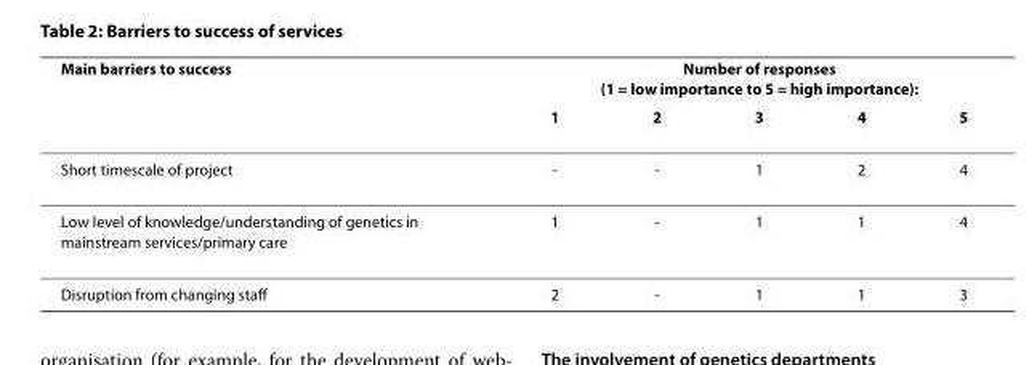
<table><thead><tr><td rowspan="2">Main barriers to success</td><td colspan="5">Number of responses (1 = low importance to 5 = high importance):</td></tr><tr><td>1</td><td>2</td><td>3</td><td>4</td><td>5</td></tr></thead><tbody><tr><td>Short timescale of project</td><td>-</td><td>-</td><td>1</td><td>2</td><td>4</td></tr><tr><td>Low level of knowledge/understanding of genetics in mainstream services/primary care</td><td>1</td><td>-</td><td>1</td><td>1</td><td>4</td></tr><tr><td>Disruption from changing staff</td><td>2</td><td>-</td><td>1</td><td>1</td><td>3</td></tr></tbody></table>